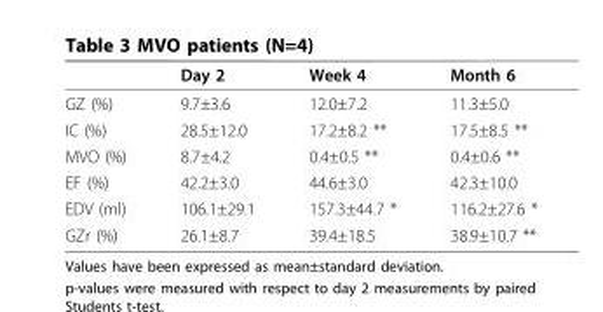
<table><thead><tr><td></td><td>Day 2</td><td>Week 4</td><td>Month 6</td></tr></thead><tbody><tr><td>GZ (%)</td><td>9.7±3.6</td><td>12.0±7.2</td><td>11.3±5.0</td></tr><tr><td>IC (%)</td><td>28.5±12.0</td><td>17.2±8.2 **</td><td>17.5±8.5 **</td></tr><tr><td>MVO (%)</td><td>8.7±4.2</td><td>0.4±0.5 **</td><td>0.4±0.6 **</td></tr><tr><td>EF (%)</td><td>42.2±3.0</td><td>44.6±3.0</td><td>42.3±10.0</td></tr><tr><td>EDV (ml)</td><td>106.1±29.1</td><td>157.3±44.7 *</td><td>116.2±27.6 *</td></tr><tr><td>GZr (%)</td><td>26.1±8.7</td><td>39.4±18.5</td><td>38.9±10.7 **</td></tr></tbody></table>